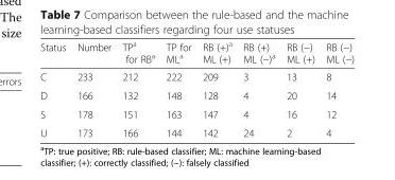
<table><thead><tr><td>Status</td><td>Number</td><td>TP<sup>a</sup> for RB<sup>a</sup></td><td>TP for ML<sup>a</sup></td><td>RB (+)<sup>a</sup> ML (+)</td><td>RB (+) ML (−)<sup>a</sup></td><td>RB (−) ML (+)</td><td>RB (−) ML (−)</td></tr></thead><tbody><tr><td>C</td><td>233</td><td>212</td><td>222</td><td>209</td><td>3</td><td>13</td><td>8</td></tr><tr><td>D</td><td>166</td><td>132</td><td>148</td><td>128</td><td>4</td><td>20</td><td>14</td></tr><tr><td>S</td><td>178</td><td>151</td><td>163</td><td>147</td><td>4</td><td>16</td><td>12</td></tr><tr><td>U</td><td>173</td><td>166</td><td>144</td><td>142</td><td>24</td><td>2</td><td>4</td></tr></tbody></table>